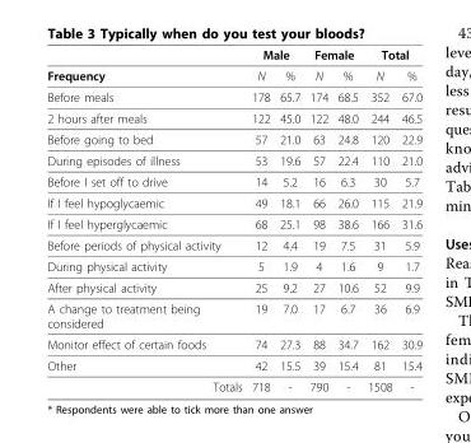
<table><thead><tr><td rowspan="2">Frequency</td><td colspan="2">Male</td><td colspan="2">Female</td><td colspan="2">Total</td></tr><tr><td>N</td><td>%</td><td>N</td><td>%</td><td>N</td><td>%</td></tr></thead><tbody><tr><td>Before meals</td><td>178</td><td>65.7</td><td>174</td><td>68.5</td><td>352</td><td>67.0</td></tr><tr><td>2 hours after meals</td><td>122</td><td>45.0</td><td>122</td><td>48.0</td><td>244</td><td>46.5</td></tr><tr><td>Before going to bed</td><td>57</td><td>21.0</td><td>63</td><td>24.8</td><td>120</td><td>22.9</td></tr><tr><td>During episodes of illness</td><td>53</td><td>19.6</td><td>57</td><td>22.4</td><td>110</td><td>21.0</td></tr><tr><td>Before I set off to drive</td><td>14</td><td>5.2</td><td>16</td><td>6.3</td><td>30</td><td>5.7</td></tr><tr><td>If I feel hypoglycaemic</td><td>49</td><td>18.1</td><td>66</td><td>26.0</td><td>115</td><td>21.9</td></tr><tr><td>If I feel hyperglycaemic</td><td>68</td><td>25.1</td><td>98</td><td>38.6</td><td>166</td><td>31.6</td></tr><tr><td>Before periods of physical activity</td><td>12</td><td>4.4</td><td>19</td><td>7.5</td><td>31</td><td>5.9</td></tr><tr><td>During physical activity</td><td>5</td><td>1.9</td><td>4</td><td>1.6</td><td>9</td><td>1.7</td></tr><tr><td>After physical activity</td><td>25</td><td>9.2</td><td>27</td><td>10.6</td><td>52</td><td>9.9</td></tr><tr><td>A change to treatment being considered</td><td>19</td><td>7.0</td><td>17</td><td>6.7</td><td>36</td><td>6.9</td></tr><tr><td>Monitor effect of certain foods</td><td>74</td><td>27.3</td><td>88</td><td>34.7</td><td>162</td><td>30.9</td></tr><tr><td>Other</td><td>42</td><td>15.5</td><td>39</td><td>15.4</td><td>81</td><td>15.4</td></tr><tr><td>Totals</td><td>718</td><td>-</td><td>790</td><td>-</td><td>1508</td><td>-</td></tr></tbody></table>